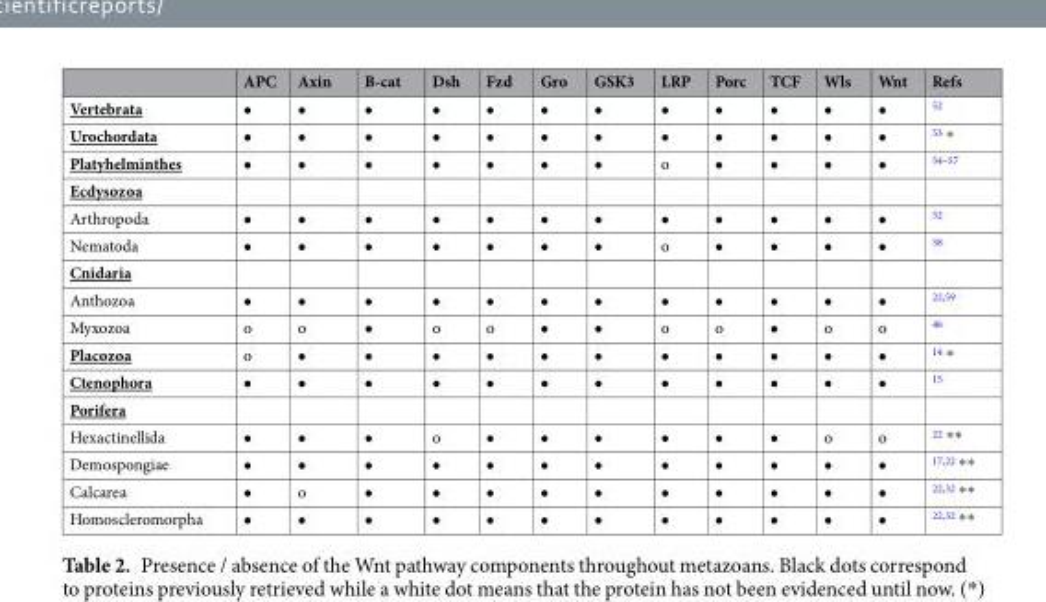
<table><thead><tr><td></td><td>APC</td><td>Axin</td><td>B-cat</td><td>Dsh</td><td>Fzd</td><td>Gro</td><td>GSK3</td><td>LRP</td><td>Porc</td><td>TCF</td><td>Wls</td><td>Wnt</td><td>Refs</td></tr></thead><tbody><tr><td>Vertebrata</td><td>•</td><td>•</td><td>•</td><td>•</td><td>•</td><td>•</td><td>•</td><td>•</td><td>•</td><td>•</td><td>•</td><td>•</td><td><sup>52</sup></td></tr><tr><td>Urochordata</td><td>•</td><td>•</td><td>•</td><td>•</td><td>•</td><td>•</td><td>•</td><td>•</td><td>•</td><td>•</td><td>•</td><td>•</td><td><sup>53</sup> *</td></tr><tr><td>Platyhelminthes</td><td>•</td><td>•</td><td>•</td><td>•</td><td>•</td><td>•</td><td>•</td><td>o</td><td>•</td><td>•</td><td>•</td><td>•</td><td><sup>54–57</sup></td></tr><tr><td colspan="14">Ecdysozoa</td></tr><tr><td>Arthropoda</td><td>•</td><td>•</td><td>•</td><td>•</td><td>•</td><td>•</td><td>•</td><td>•</td><td>•</td><td>•</td><td>•</td><td>•</td><td><sup>52</sup></td></tr><tr><td>Nematoda</td><td>•</td><td>•</td><td>•</td><td>•</td><td>•</td><td>•</td><td>•</td><td>o</td><td>•</td><td>•</td><td>•</td><td>•</td><td><sup>58</sup></td></tr><tr><td colspan="14">Cnidaria</td></tr><tr><td>Anthozoa</td><td>•</td><td>•</td><td>•</td><td>•</td><td>•</td><td>•</td><td>•</td><td>•</td><td>•</td><td>•</td><td>•</td><td>•</td><td><sup>22,59</sup></td></tr><tr><td>Myxozoa</td><td>o</td><td>o</td><td>•</td><td>o</td><td>o</td><td>•</td><td>•</td><td>o</td><td>o</td><td>•</td><td>o</td><td>o</td><td><sup>46</sup></td></tr><tr><td>Placozoa</td><td>o</td><td>•</td><td>•</td><td>•</td><td>•</td><td>•</td><td>•</td><td>•</td><td>•</td><td>•</td><td>•</td><td>•</td><td><sup>14</sup> *</td></tr><tr><td>Ctenophora</td><td>•</td><td>•</td><td>•</td><td>•</td><td>•</td><td>•</td><td>•</td><td>•</td><td>•</td><td>•</td><td>•</td><td>•</td><td><sup>15</sup></td></tr><tr><td colspan="14">Porifera</td></tr><tr><td>Hexactinellida</td><td>•</td><td>•</td><td>•</td><td>o</td><td>•</td><td>•</td><td>•</td><td>•</td><td>•</td><td>•</td><td>o</td><td>o</td><td><sup>22</sup> **</td></tr><tr><td>Demospongiae</td><td>•</td><td>•</td><td>•</td><td>•</td><td>•</td><td>•</td><td>•</td><td>•</td><td>•</td><td>•</td><td>•</td><td>•</td><td><sup>17,22</sup> **</td></tr><tr><td>Calcarea</td><td>•</td><td>o</td><td>•</td><td>•</td><td>•</td><td>•</td><td>•</td><td>•</td><td>•</td><td>•</td><td>•</td><td>•</td><td><sup>22,32</sup> **</td></tr><tr><td>Homoscleromorpha</td><td>•</td><td>•</td><td>•</td><td>•</td><td>•</td><td>•</td><td>•</td><td>•</td><td>•</td><td>•</td><td>•</td><td>•</td><td><sup>22,32</sup> **</td></tr></tbody></table>